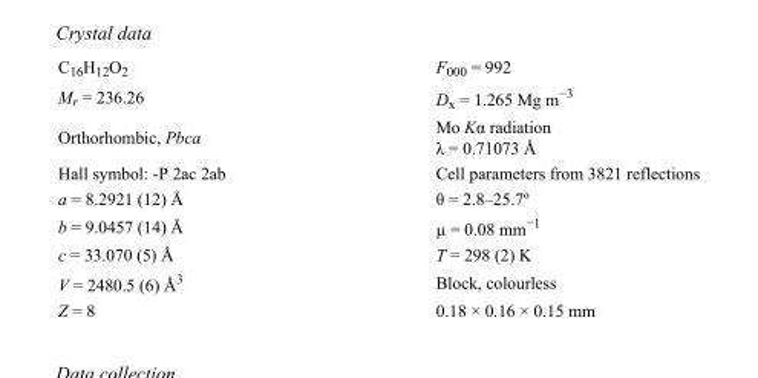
<table><tbody><tr><td>C<sub>16</sub>H<sub>12</sub>O<sub>2</sub></td><td>F<sub>000</sub> = 992</td></tr><tr><td>M<sub>r</sub> = 236.26</td><td>D<sub>x</sub> = 1.265 Mg m<sup>−3</sup></td></tr><tr><td>Orthorhombic, Pbca</td><td>Mo Kα radiation λ = 0.71073 Å</td></tr><tr><td>Hall symbol: -P 2ac 2ab</td><td>Cell parameters from 3821 reflections</td></tr><tr><td>a = 8.2921 (12) Å</td><td>θ = 2.8–25.7º</td></tr><tr><td>b = 9.0457 (14) Å</td><td>µ = 0.08 mm<sup>−1</sup></td></tr><tr><td>c = 33.070 (5) Å</td><td>T = 298 (2) K</td></tr><tr><td>V = 2480.5 (6) Å<sup>3</sup></td><td>Block, colourless</td></tr><tr><td>Z = 8</td><td>0.18 × 0.16 × 0.15 mm</td></tr></tbody></table>